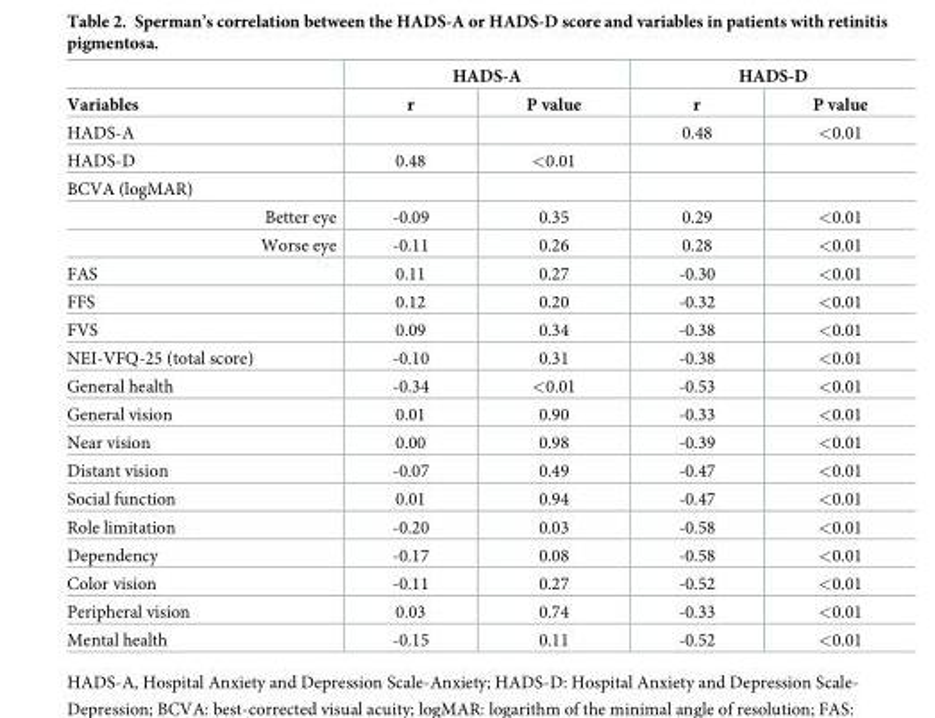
<table><thead><tr><td rowspan="2">Variables</td><td colspan="2">HADS-A</td><td colspan="2">HADS-D</td></tr><tr><td>r</td><td>P value</td><td>r</td><td>P value</td></tr></thead><tbody><tr><td>HADS-A</td><td></td><td></td><td>0.48</td><td>&lt;0.01</td></tr><tr><td>HADS-D</td><td>0.48</td><td>&lt;0.01</td><td></td><td></td></tr><tr><td colspan="5">BCVA (logMAR)</td></tr><tr><td>Better eye</td><td>-0.09</td><td>0.35</td><td>0.29</td><td>&lt;0.01</td></tr><tr><td>Worse eye</td><td>-0.11</td><td>0.26</td><td>0.28</td><td>&lt;0.01</td></tr><tr><td>FAS</td><td>0.11</td><td>0.27</td><td>-0.30</td><td>&lt;0.01</td></tr><tr><td>FFS</td><td>0.12</td><td>0.20</td><td>-0.32</td><td>&lt;0.01</td></tr><tr><td>FVS</td><td>0.09</td><td>0.34</td><td>-0.38</td><td>&lt;0.01</td></tr><tr><td>NEI-VFQ-25 (total score)</td><td>-0.10</td><td>0.31</td><td>-0.38</td><td>&lt;0.01</td></tr><tr><td>General health</td><td>-0.34</td><td>&lt;0.01</td><td>-0.53</td><td>&lt;0.01</td></tr><tr><td>General vision</td><td>0.01</td><td>0.90</td><td>-0.33</td><td>&lt;0.01</td></tr><tr><td>Near vision</td><td>0.00</td><td>0.98</td><td>-0.39</td><td>&lt;0.01</td></tr><tr><td>Distant vision</td><td>-0.07</td><td>0.49</td><td>-0.47</td><td>&lt;0.01</td></tr><tr><td>Social function</td><td>0.01</td><td>0.94</td><td>-0.47</td><td>&lt;0.01</td></tr><tr><td>Role limitation</td><td>-0.20</td><td>0.03</td><td>-0.58</td><td>&lt;0.01</td></tr><tr><td>Dependency</td><td>-0.17</td><td>0.08</td><td>-0.58</td><td>&lt;0.01</td></tr><tr><td>Color vision</td><td>-0.11</td><td>0.27</td><td>-0.52</td><td>&lt;0.01</td></tr><tr><td>Peripheral vision</td><td>0.03</td><td>0.74</td><td>-0.33</td><td>&lt;0.01</td></tr><tr><td>Mental health</td><td>-0.15</td><td>0.11</td><td>-0.52</td><td>&lt;0.01</td></tr></tbody></table>